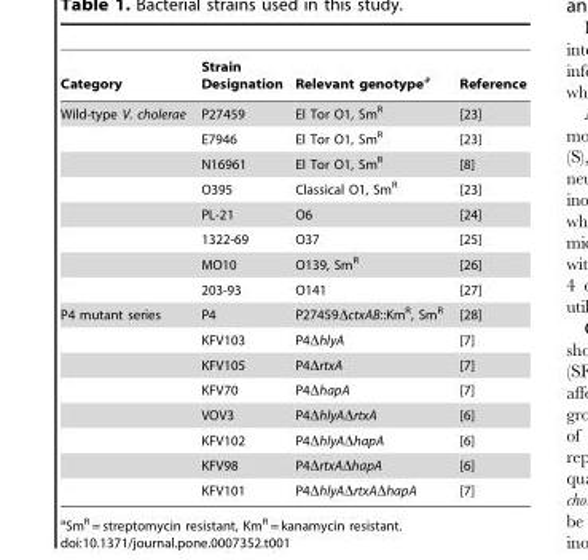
<table><thead><tr><td>Category</td><td>Strain Designation</td><td>Relevant genotype<sup>a</sup></td><td>Reference</td></tr></thead><tbody><tr><td rowspan="8">Wild-type V. cholerae</td><td>P27459</td><td>El Tor O1, Sm<sup>R</sup></td><td>[23]</td></tr><tr><td>E7946</td><td>El Tor O1, Sm<sup>R</sup></td><td>[23]</td></tr><tr><td>N16961</td><td>El Tor O1, Sm<sup>R</sup></td><td>[8]</td></tr><tr><td>O395</td><td>Classical O1, Sm<sup>R</sup></td><td>[23]</td></tr><tr><td>PL-21</td><td>O6</td><td>[24]</td></tr><tr><td>1322-69</td><td>O37</td><td>[25]</td></tr><tr><td>MO10</td><td>O139, Sm<sup>R</sup></td><td>[26]</td></tr><tr><td>203-93</td><td>O141</td><td>[27]</td></tr><tr><td rowspan="8">P4 mutant series</td><td>P4</td><td>P27459ΔctxAB::Km<sup>R</sup>, Sm<sup>R</sup></td><td>[28]</td></tr><tr><td>KFV103</td><td>P4ΔhlyA</td><td>[7]</td></tr><tr><td>KFV105</td><td>P4ΔrtxA</td><td>[7]</td></tr><tr><td>KFV70</td><td>P4ΔhapA</td><td>[7]</td></tr><tr><td>VOV3</td><td>P4ΔhlyAΔrtxA</td><td>[6]</td></tr><tr><td>KFV102</td><td>P4ΔhlyAΔhapA</td><td>[6]</td></tr><tr><td>KFV98</td><td>P4ΔrtxAΔhapA</td><td>[6]</td></tr><tr><td>KFV101</td><td>P4ΔhlyAΔrtxAΔhapA</td><td>[7]</td></tr></tbody></table>